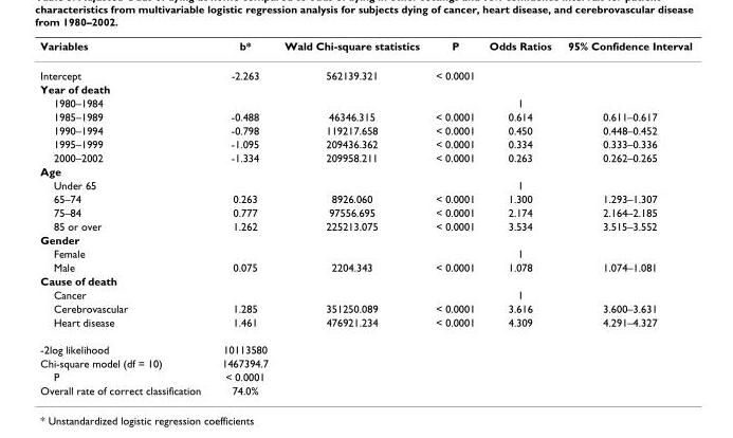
<table><thead><tr><td>Variables</td><td>b*</td><td>Wald Chi-square statistics</td><td>P</td><td>Odds Ratios</td><td>95% Confidence Interval</td></tr></thead><tbody><tr><td>Intercept</td><td>-2.263</td><td>562139.321</td><td>&lt; 0.0001</td><td></td><td></td></tr><tr><td colspan="6">Year of death</td></tr><tr><td>1980–1984</td><td></td><td></td><td></td><td>1</td><td></td></tr><tr><td>1985–1989</td><td>-0.488</td><td>46346.315</td><td>&lt; 0.0001</td><td>0.614</td><td>0.611–0.617</td></tr><tr><td>1990–1994</td><td>-0.798</td><td>119217.658</td><td>&lt; 0.0001</td><td>0.450</td><td>0.448–0.452</td></tr><tr><td>1995–1999</td><td>-1.095</td><td>209436.362</td><td>&lt; 0.0001</td><td>0.334</td><td>0.333–0.336</td></tr><tr><td>2000–2002</td><td>-1.334</td><td>209958.211</td><td>&lt; 0.0001</td><td>0.263</td><td>0.262–0.265</td></tr><tr><td colspan="6">Age</td></tr><tr><td>Under 65</td><td></td><td></td><td></td><td>1</td><td></td></tr><tr><td>65–74</td><td>0.263</td><td>8926.060</td><td>&lt; 0.0001</td><td>1.300</td><td>1.293–1.307</td></tr><tr><td>75–84</td><td>0.777</td><td>97556.695</td><td>&lt; 0.0001</td><td>2.174</td><td>2.164–2.185</td></tr><tr><td>85 or over</td><td>1.262</td><td>225213.075</td><td>&lt; 0.0001</td><td>3.534</td><td>3.515–3.552</td></tr><tr><td colspan="6">Gender</td></tr><tr><td>Female</td><td></td><td></td><td></td><td>1</td><td></td></tr><tr><td>Male</td><td>0.075</td><td>2204.343</td><td>&lt; 0.0001</td><td>1.078</td><td>1.074–1.081</td></tr><tr><td colspan="6">Cause of death</td></tr><tr><td>Cancer</td><td></td><td></td><td></td><td>1</td><td></td></tr><tr><td>Cerebrovascular</td><td>1.285</td><td>351250.089</td><td>&lt; 0.0001</td><td>3.616</td><td>3.600–3.631</td></tr><tr><td>Heart disease</td><td>1.461</td><td>476921.234</td><td>&lt; 0.0001</td><td>4.309</td><td>4.291–4.327</td></tr><tr><td>-2log likelihood</td><td>10113580</td><td></td><td></td><td></td><td></td></tr><tr><td>Chi-square model (df = 10)</td><td>1467394.7</td><td></td><td></td><td></td><td></td></tr><tr><td>P</td><td>&lt; 0.0001</td><td></td><td></td><td></td><td></td></tr><tr><td>Overall rate of correct classification</td><td>74.0%</td><td></td><td></td><td></td><td></td></tr></tbody></table>